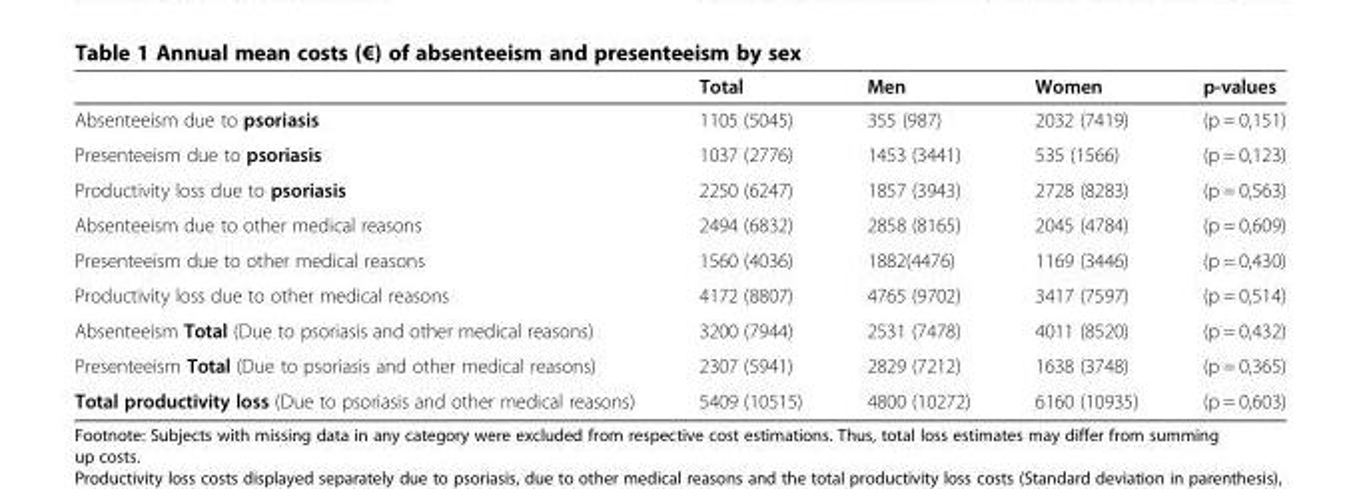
<table><thead><tr><td></td><td>Total</td><td>Men</td><td>Women</td><td>p-values</td></tr></thead><tbody><tr><td>Absenteeism due to psoriasis</td><td>1105 (5045)</td><td>355 (987)</td><td>2032 (7419)</td><td>(p = 0,151)</td></tr><tr><td>Presenteeism due to psoriasis</td><td>1037 (2776)</td><td>1453 (3441)</td><td>535 (1566)</td><td>(p = 0,123)</td></tr><tr><td>Productivity loss due to psoriasis</td><td>2250 (6247)</td><td>1857 (3943)</td><td>2728 (8283)</td><td>(p = 0,563)</td></tr><tr><td>Absenteeism due to other medical reasons</td><td>2494 (6832)</td><td>2858 (8165)</td><td>2045 (4784)</td><td>(p = 0,609)</td></tr><tr><td>Presenteeism due to other medical reasons</td><td>1560 (4036)</td><td>1882(4476)</td><td>1169 (3446)</td><td>(p = 0,430)</td></tr><tr><td>Productivity loss due to other medical reasons</td><td>4172 (8807)</td><td>4765 (9702)</td><td>3417 (7597)</td><td>(p = 0,514)</td></tr><tr><td>Absenteeism Total (Due to psoriasis and other medical reasons)</td><td>3200 (7944)</td><td>2531 (7478)</td><td>4011 (8520)</td><td>(p = 0,432)</td></tr><tr><td>Presenteeism Total (Due to psoriasis and other medical reasons)</td><td>2307 (5941)</td><td>2829 (7212)</td><td>1638 (3748)</td><td>(p = 0,365)</td></tr><tr><td>Total productivity loss (Due to psoriasis and other medical reasons)</td><td>5409 (10515)</td><td>4800 (10272)</td><td>6160 (10935)</td><td>(p = 0,603)</td></tr></tbody></table>